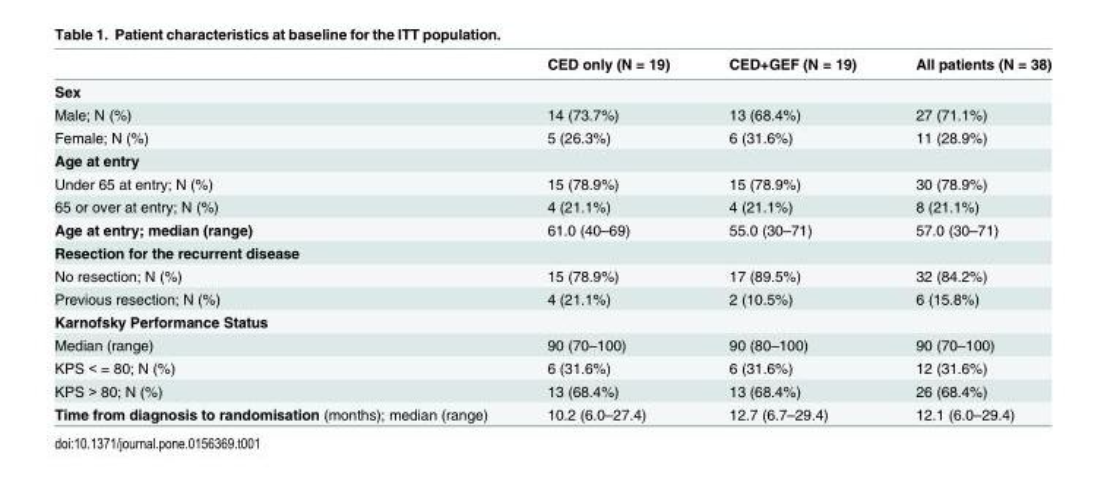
<table><thead><tr><td></td><td>CED only (N = 19)</td><td>CED+GEF (N = 19)</td><td>All patients (N = 38)</td></tr></thead><tbody><tr><td colspan="4">Sex</td></tr><tr><td>Male; N (%)</td><td>14 (73.7%)</td><td>13 (68.4%)</td><td>27 (71.1%)</td></tr><tr><td>Female; N (%)</td><td>5 (26.3%)</td><td>6 (31.6%)</td><td>11 (28.9%)</td></tr><tr><td colspan="4">Age at entry</td></tr><tr><td>Under 65 at entry; N (%)</td><td>15 (78.9%)</td><td>15 (78.9%)</td><td>30 (78.9%)</td></tr><tr><td>65 or over at entry; N (%)</td><td>4 (21.1%)</td><td>4 (21.1%)</td><td>8 (21.1%)</td></tr><tr><td>Age at entry; median (range)</td><td>61.0 (40–69)</td><td>55.0 (30–71)</td><td>57.0 (30–71)</td></tr><tr><td colspan="4">Resection for the recurrent disease</td></tr><tr><td>No resection; N (%)</td><td>15 (78.9%)</td><td>17 (89.5%)</td><td>32 (84.2%)</td></tr><tr><td>Previous resection; N (%)</td><td>4 (21.1%)</td><td>2 (10.5%)</td><td>6 (15.8%)</td></tr><tr><td colspan="4">Karnofsky Performance Status</td></tr><tr><td>Median (range)</td><td>90 (70–100)</td><td>90 (80–100)</td><td>90 (70–100)</td></tr><tr><td>KPS &lt; = 80; N (%)</td><td>6 (31.6%)</td><td>6 (31.6%)</td><td>12 (31.6%)</td></tr><tr><td>KPS &gt; 80; N (%)</td><td>13 (68.4%)</td><td>13 (68.4%)</td><td>26 (68.4%)</td></tr><tr><td>Time from diagnosis to randomisation (months); median (range)</td><td>10.2 (6.0–27.4)</td><td>12.7 (6.7–29.4)</td><td>12.1 (6.0–29.4)</td></tr></tbody></table>